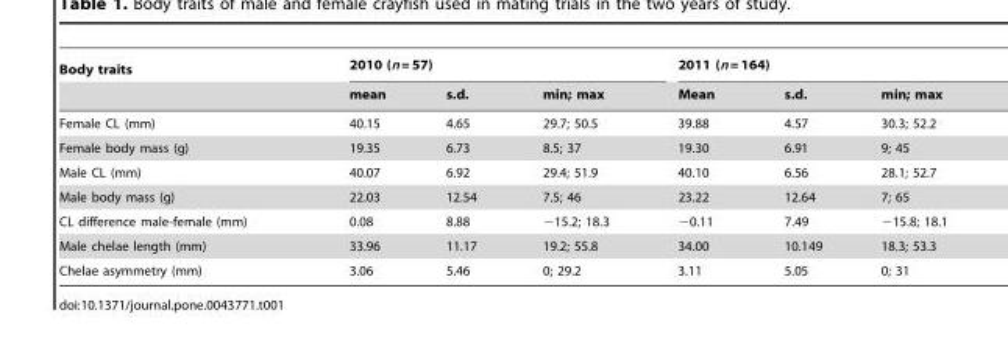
<table><thead><tr><td rowspan="2">Body traits</td><td colspan="3">2010 (n = 57)</td><td colspan="3">2011 (n = 164)</td></tr><tr><td>mean</td><td>s.d.</td><td>min; max</td><td>Mean</td><td>s.d.</td><td>min; max</td></tr></thead><tbody><tr><td>Female CL (mm)</td><td>40.15</td><td>4.65</td><td>29.7; 50.5</td><td>39.88</td><td>4.57</td><td>30.3; 52.2</td></tr><tr><td>Female body mass (g)</td><td>19.35</td><td>6.73</td><td>8.5; 37</td><td>19.30</td><td>6.91</td><td>9; 45</td></tr><tr><td>Male CL (mm)</td><td>40.07</td><td>6.92</td><td>29.4; 51.9</td><td>40.10</td><td>6.56</td><td>28.1; 52.7</td></tr><tr><td>Male body mass (g)</td><td>22.03</td><td>12.54</td><td>7.5; 46</td><td>23.22</td><td>12.64</td><td>7; 65</td></tr><tr><td>CL difference male-female (mm)</td><td>0.08</td><td>8.88</td><td>−15.2; 18.3</td><td>−0.11</td><td>7.49</td><td>−15.8; 18.1</td></tr><tr><td>Male chelae length (mm)</td><td>33.96</td><td>11.17</td><td>19.2; 55.8</td><td>34.00</td><td>10.149</td><td>18.3; 53.3</td></tr><tr><td>Chelae asymmetry (mm)</td><td>3.06</td><td>5.46</td><td>0; 29.2</td><td>3.11</td><td>5.05</td><td>0; 31</td></tr></tbody></table>